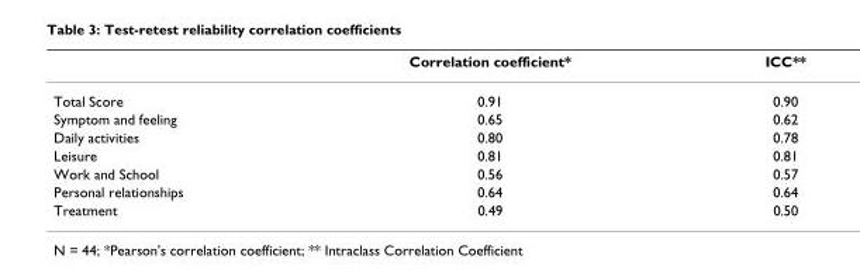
<table><thead><tr><td></td><td>Correlation coefficient*</td><td>ICC**</td></tr></thead><tbody><tr><td>Total Score</td><td>0.91</td><td>0.90</td></tr><tr><td>Symptom and feeling</td><td>0.65</td><td>0.62</td></tr><tr><td>Daily activities</td><td>0.80</td><td>0.78</td></tr><tr><td>Leisure</td><td>0.81</td><td>0.81</td></tr><tr><td>Work and School</td><td>0.56</td><td>0.57</td></tr><tr><td>Personal relationships</td><td>0.64</td><td>0.64</td></tr><tr><td>Treatment</td><td>0.49</td><td>0.50</td></tr></tbody></table>